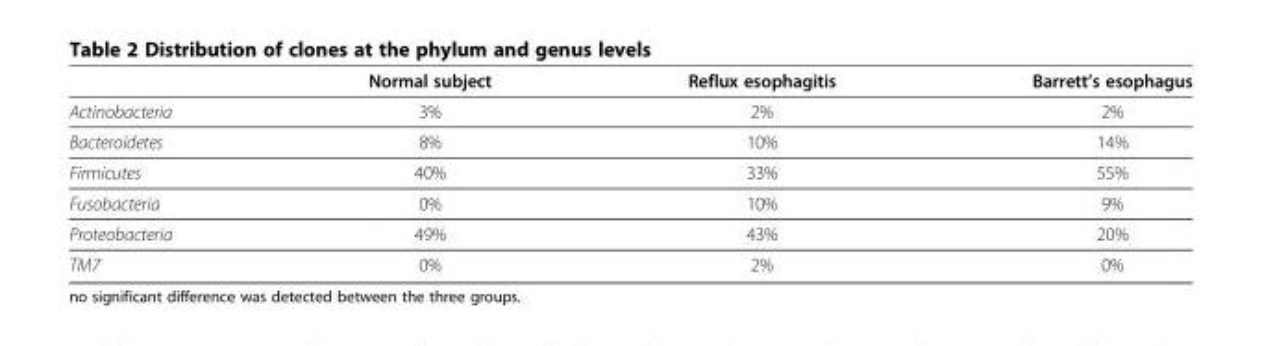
<table><thead><tr><td></td><td>Normal subject</td><td>Reflux esophagitis</td><td>Barrett’s esophagus</td></tr></thead><tbody><tr><td>Actinobacteria</td><td>3%</td><td>2%</td><td>2%</td></tr><tr><td>Bacteroidetes</td><td>8%</td><td>10%</td><td>14%</td></tr><tr><td>Firmicutes</td><td>40%</td><td>33%</td><td>55%</td></tr><tr><td>Fusobacteria</td><td>0%</td><td>10%</td><td>9%</td></tr><tr><td>Proteobacteria</td><td>49%</td><td>43%</td><td>20%</td></tr><tr><td>TM7</td><td>0%</td><td>2%</td><td>0%</td></tr></tbody></table>